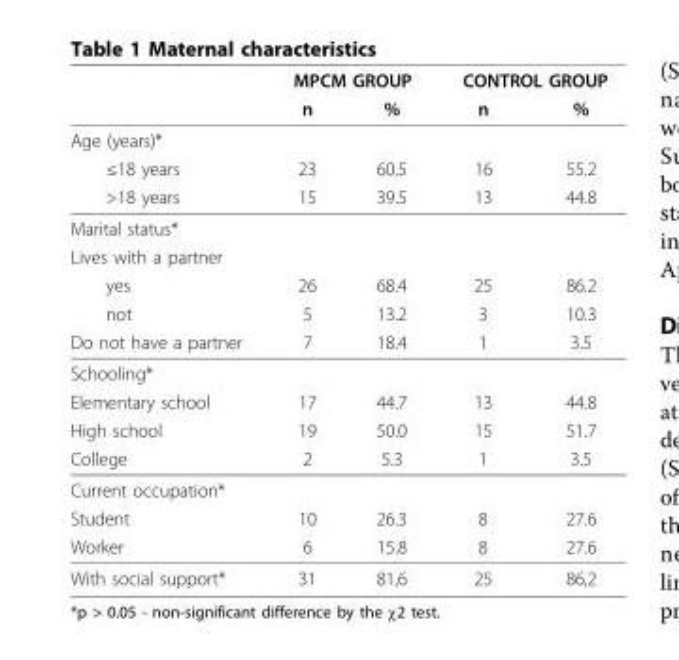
<table><thead><tr><td rowspan="2"></td><td colspan="2">MPCM GROUP</td><td colspan="2">CONTROL GROUP</td></tr><tr><td>n</td><td>%</td><td>n</td><td>%</td></tr></thead><tbody><tr><td colspan="5">Age (years)*</td></tr><tr><td>≤18 years</td><td>23</td><td>60.5</td><td>16</td><td>55.2</td></tr><tr><td>&gt;18 years</td><td>15</td><td>39.5</td><td>13</td><td>44.8</td></tr><tr><td colspan="5">Marital status*</td></tr><tr><td colspan="5">Lives with a partner</td></tr><tr><td>yes</td><td>26</td><td>68.4</td><td>25</td><td>86.2</td></tr><tr><td>not</td><td>5</td><td>13.2</td><td>3</td><td>10.3</td></tr><tr><td>Do not have a partner</td><td>7</td><td>18.4</td><td>1</td><td>3.5</td></tr><tr><td colspan="5">Schooling*</td></tr><tr><td>Elementary school</td><td>17</td><td>44.7</td><td>13</td><td>44.8</td></tr><tr><td>High school</td><td>19</td><td>50.0</td><td>15</td><td>51.7</td></tr><tr><td>College</td><td>2</td><td>5.3</td><td>1</td><td>3.5</td></tr><tr><td colspan="5">Current occupation*</td></tr><tr><td>Student</td><td>10</td><td>26.3</td><td>8</td><td>27.6</td></tr><tr><td>Worker</td><td>6</td><td>15.8</td><td>8</td><td>27.6</td></tr><tr><td>With social support*</td><td>31</td><td>81,6</td><td>25</td><td>86,2</td></tr></tbody></table>